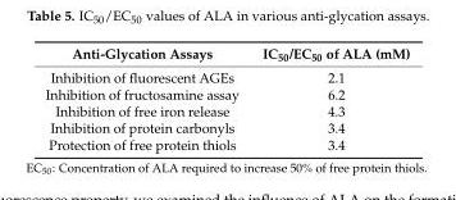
<table><thead><tr><td>Anti-Glycation Assays</td><td>IC<sub>50</sub>/EC<sub>50</sub> of ALA (mM)</td></tr></thead><tbody><tr><td>Inhibition of fluorescent AGEs</td><td>2.1</td></tr><tr><td>Inhibition of fructosamine assay</td><td>6.2</td></tr><tr><td>Inhibition of free iron release</td><td>4.3</td></tr><tr><td>Inhibition of protein carbonyls</td><td>3.4</td></tr><tr><td>Protection of free protein thiols</td><td>3.4</td></tr></tbody></table>